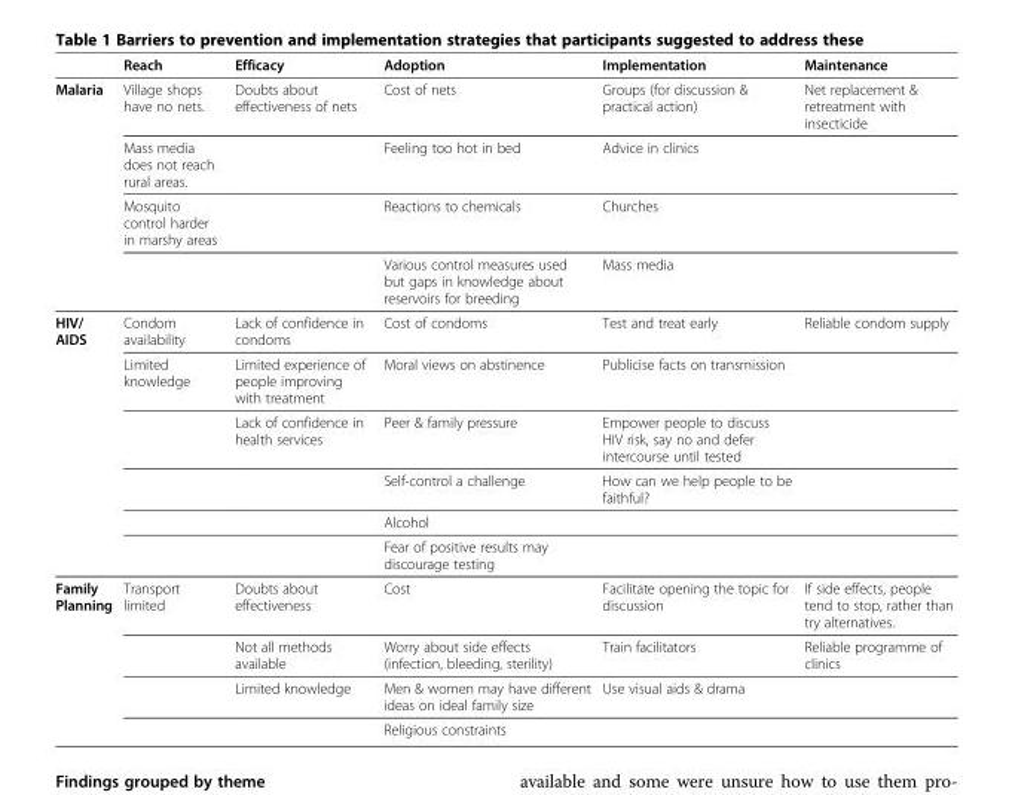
<table><thead><tr><td></td><td>Reach</td><td>Efficacy</td><td>Adoption</td><td>Implementation</td><td>Maintenance</td></tr></thead><tbody><tr><td rowspan="4">Malaria</td><td>Village shops have no nets.</td><td>Doubts about effectiveness of nets</td><td>Cost of nets</td><td>Groups (for discussion &amp; practical action)</td><td>Net replacement &amp; retreatment with insecticide</td></tr><tr><td>Mass media does not reach rural areas.</td><td></td><td>Feeling too hot in bed</td><td>Advice in clinics</td><td></td></tr><tr><td>Mosquito control harder in marshy areas</td><td></td><td>Reactions to chemicals</td><td>Churches</td><td></td></tr><tr><td></td><td></td><td>Various control measures used but gaps in knowledge about reservoirs for breeding</td><td>Mass media</td><td></td></tr><tr><td rowspan="6">HIV/ AIDS</td><td>Condom availability</td><td>Lack of confidence in condoms</td><td>Cost of condoms</td><td>Test and treat early</td><td>Reliable condom supply</td></tr><tr><td>Limited knowledge</td><td>Limited experience of people improving with treatment</td><td>Moral views on abstinence</td><td>Publicise facts on transmission</td><td></td></tr><tr><td></td><td>Lack of confidence in health services</td><td>Peer &amp; family pressure</td><td>Empower people to discuss HIV risk, say no and defer intercourse until tested</td><td></td></tr><tr><td></td><td></td><td>Self-control a challenge</td><td>How can we help people to be faithful?</td><td></td></tr><tr><td></td><td></td><td>Alcohol</td><td></td><td></td></tr><tr><td></td><td></td><td>Fear of positive results may discourage testing</td><td></td><td></td></tr><tr><td rowspan="4">Family Planning</td><td>Transport limited</td><td>Doubts about effectiveness</td><td>Cost</td><td>Facilitate opening the topic for discussion</td><td>If side effects, people tend to stop, rather than try alternatives.</td></tr><tr><td></td><td>Not all methods available</td><td>Worry about side effects (infection, bleeding, sterility)</td><td>Train facilitators</td><td>Reliable programme of clinics</td></tr><tr><td></td><td>Limited knowledge</td><td>Men &amp; women may have different ideas on ideal family size</td><td>Use visual aids &amp; drama</td><td></td></tr><tr><td></td><td></td><td>Religious constraints</td><td></td><td></td></tr></tbody></table>